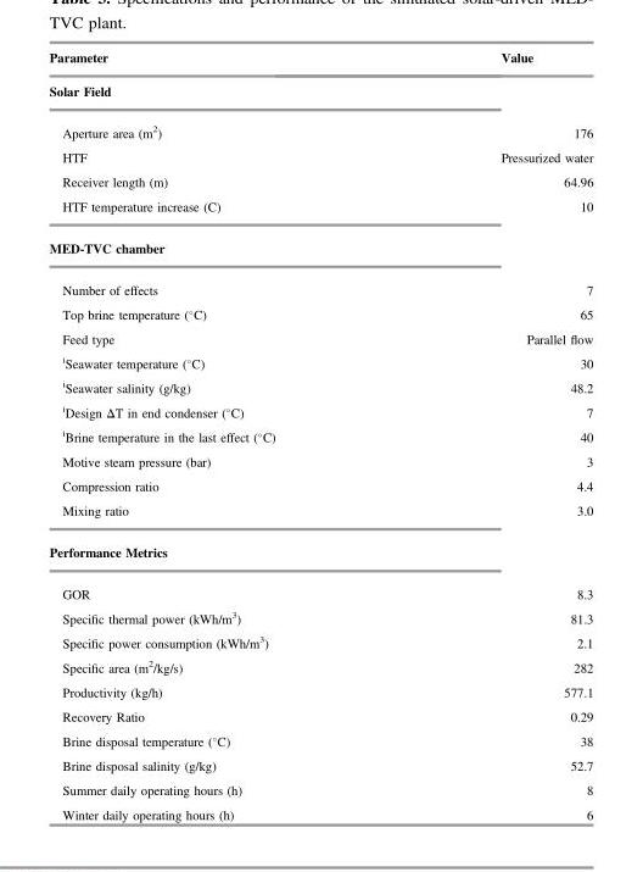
<table><thead><tr><td>Parameter</td><td>Value</td></tr></thead><tbody><tr><td colspan="2">Solar Field</td></tr><tr><td>Aperture area (m<sup>2</sup>)</td><td>176</td></tr><tr><td>HTF</td><td>Pressurized water</td></tr><tr><td>Receiver length (m)</td><td>64.96</td></tr><tr><td>HTF temperature increase (C)</td><td>10</td></tr><tr><td colspan="2">MED-TVC chamber</td></tr><tr><td>Number of effects</td><td>7</td></tr><tr><td>Top brine temperature (°C)</td><td>65</td></tr><tr><td>Feed type</td><td>Parallel flow</td></tr><tr><td><sup>i</sup>Seawater temperature (°C)</td><td>30</td></tr><tr><td><sup>i</sup>Seawater salinity (g/kg)</td><td>48.2</td></tr><tr><td><sup>i</sup>Design ΔT in end condenser (°C)</td><td>7</td></tr><tr><td><sup>i</sup>Brine temperature in the last effect (°C)</td><td>40</td></tr><tr><td>Motive steam pressure (bar)</td><td>3</td></tr><tr><td>Compression ratio</td><td>4.4</td></tr><tr><td>Mixing ratio</td><td>3.0</td></tr><tr><td colspan="2">Performance Metrics</td></tr><tr><td>GOR</td><td>8.3</td></tr><tr><td>Specific thermal power (kWh/m<sup>3</sup>)</td><td>81.3</td></tr><tr><td>Specific power consumption (kWh/m<sup>3</sup>)</td><td>2.1</td></tr><tr><td>Specific area (m<sup>2</sup>/kg/s)</td><td>282</td></tr><tr><td>Productivity (kg/h)</td><td>577.1</td></tr><tr><td>Recovery Ratio</td><td>0.29</td></tr><tr><td>Brine disposal temperature (°C)</td><td>38</td></tr><tr><td>Brine disposal salinity (g/kg)</td><td>52.7</td></tr><tr><td>Summer daily operating hours (h)</td><td>8</td></tr><tr><td>Winter daily operating hours (h)</td><td>6</td></tr></tbody></table>